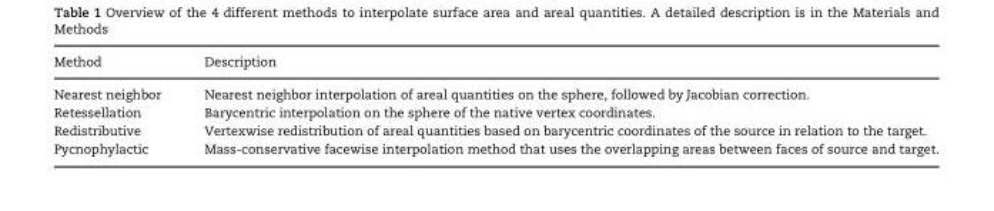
<table><thead><tr><td>Method</td><td>Description</td></tr></thead><tbody><tr><td>Nearest neighbor</td><td>Nearest neighbor interpolation of areal quantities on the sphere, followed by Jacobian correction.</td></tr><tr><td>Retessellation</td><td>Barycentric interpolation on the sphere of the native vertex coordinates.</td></tr><tr><td>Redistributive</td><td>Vertexwise redistribution of areal quantities based on barycentric coordinates of the source in relation to the target.</td></tr><tr><td>Pycnophylactic</td><td>Mass-conservative facewise interpolation method that uses the overlapping areas between faces of source and target.</td></tr></tbody></table>